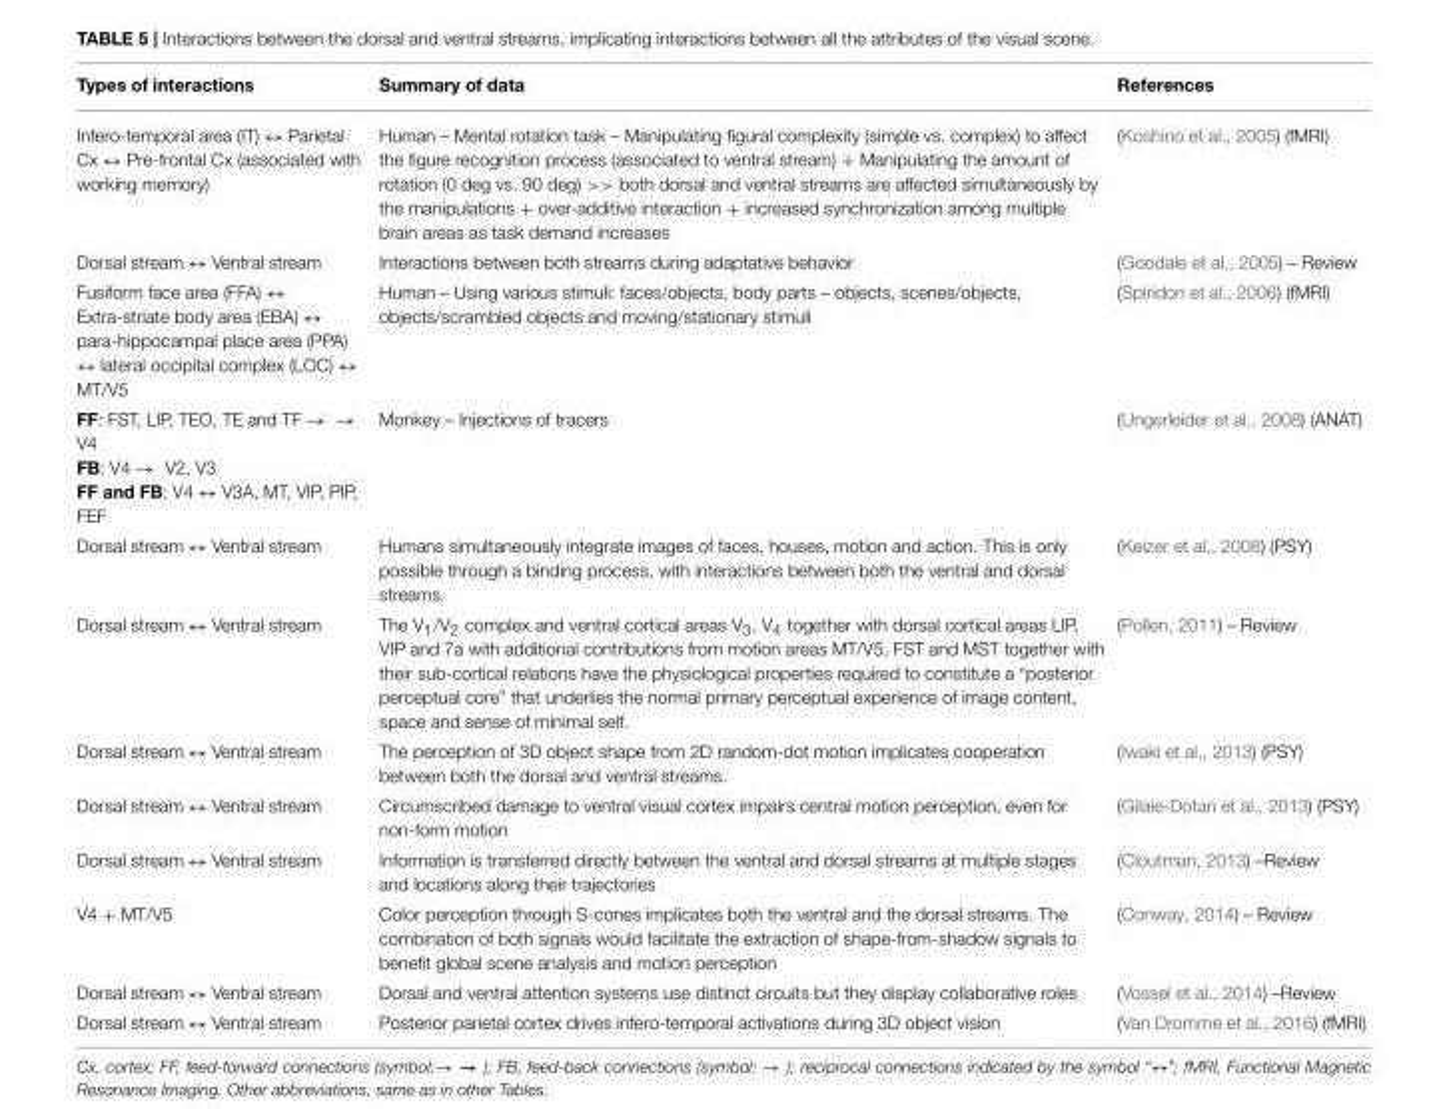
<table><thead><tr><td>Types of interactions</td><td>Summary of data</td><td>References</td></tr></thead><tbody><tr><td>Infero-temporal area (IT) ↔ Parietal Cx ↔ Pre-frontal Cx (associated with working memory)</td><td>Human – Mental rotation task – Manipulating figural complexity (simple vs. complex) to affect the figure recognition process (associated to ventral stream) + Manipulating the amount of rotation (0 deg vs. 90 deg) &gt;&gt; both dorsal and ventral streams are affected simultaneously by the manipulations + over-additive interaction + increased synchronization among multiple brain areas as task demand increases</td><td>(Koshino et al., 2005) (fMRI)</td></tr><tr><td>Dorsal stream ↔ Ventral stream</td><td>Interactions between both streams during adaptative behavior</td><td>(Goodale et al., 2005) – Review</td></tr><tr><td>Fusiform face area (FFA) ↔ Extra-striate body area (EBA) ↔ para-hippocampal place area (PPA) ↔ lateral occipital complex (LOC) ↔ MT/V5</td><td>Human – Using various stimuli: faces/objects, body parts – objects, scenes/objects, objects/scrambled objects and moving/stationary stimuli</td><td>(Spiridon et al., 2006) (fMRI)</td></tr><tr><td>FF: FST, LIP, TEO, TE and TF → → V4 FB: V4 → V2, V3 FF and FB: V4 ↔ V3A, MT, VIP, PIP, FEF</td><td>Monkey – Injections of tracers</td><td>(Ungerleider et al., 2008) (ANAT)</td></tr><tr><td>Dorsal stream ↔ Ventral stream</td><td>Humans simultaneously integrate images of faces, houses, motion and action. This is only possible through a binding process, with interactions between both the ventral and dorsal streams.</td><td>(Keizer et al., 2008) (PSY)</td></tr><tr><td>Dorsal stream ↔ Ventral stream</td><td>The V<sub>1</sub>/V<sub>2</sub> complex and ventral cortical areas V<sub>3</sub>, V<sub>4</sub> together with dorsal cortical areas LIP, VIP and 7a with additional contributions from motion areas MT/V5, FST and MST together with their sub-cortical relations have the physiological properties required to constitute a “posterior perceptual core” that underlies the normal primary perceptual experience of image content, space and sense of minimal self.</td><td>(Pollen, 2011) – Review</td></tr><tr><td>Dorsal stream ↔ Ventral stream</td><td>The perception of 3D object shape from 2D random-dot motion implicates cooperation between both the dorsal and ventral streams.</td><td>(Iwaki et al., 2013) (PSY)</td></tr><tr><td>Dorsal stream ↔ Ventral stream</td><td>Circumscribed damage to ventral visual cortex impairs central motion perception, even for non-form motion</td><td>(Gilaie-Dotan et al., 2013) (PSY)</td></tr><tr><td>Dorsal stream ↔ Ventral stream</td><td>Information is transferred directly between the ventral and dorsal streams at multiple stages and locations along their trajectories</td><td>(Cloutman, 2013) –Review</td></tr><tr><td>V4 + MT/V5</td><td>Color perception through S-cones implicates both the ventral and the dorsal streams. The combination of both signals would facilitate the extraction of shape-from-shadow signals to benefit global scene analysis and motion perception</td><td>(Conway, 2014) – Review</td></tr><tr><td>Dorsal stream ↔ Ventral stream</td><td>Dorsal and ventral attention systems use distinct circuits but they display collaborative roles</td><td>(Vossel et al., 2014) –Review</td></tr><tr><td>Dorsal stream ↔ Ventral stream</td><td>Posterior parietal cortex drives infero-temporal activations during 3D object vision</td><td>(Van Dromme et al., 2016) (fMRI)</td></tr></tbody></table>